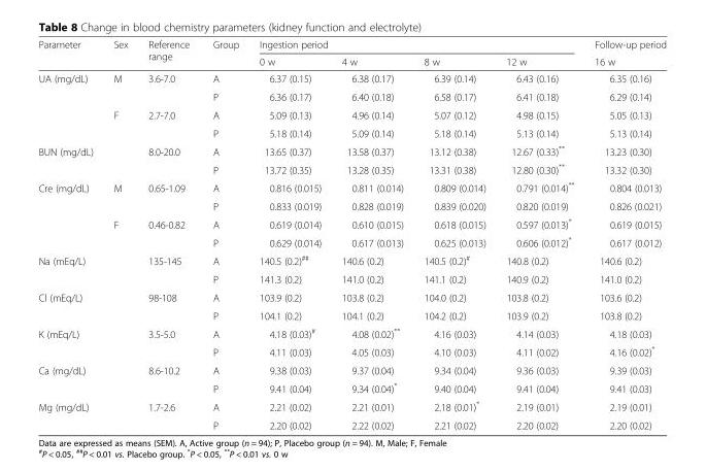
<table><thead><tr><td rowspan="2">Parameter</td><td rowspan="2">Sex</td><td rowspan="2">Reference range</td><td rowspan="2">Group</td><td colspan="4">Ingestion period</td><td rowspan="2">Follow-up period 16 w</td></tr><tr><td>0 w</td><td>4 w</td><td>8 w</td><td>12 w</td></tr></thead><tbody><tr><td rowspan="4">UA (mg/dL)</td><td rowspan="2">M</td><td rowspan="2">3.6-7.0</td><td>A</td><td>6.37 (0.15)</td><td>6.38 (0.17)</td><td>6.39 (0.14)</td><td>6.43 (0.16)</td><td>6.35 (0.16)</td></tr><tr><td>P</td><td>6.36 (0.17)</td><td>6.40 (0.18)</td><td>6.58 (0.17)</td><td>6.41 (0.18)</td><td>6.29 (0.14)</td></tr><tr><td rowspan="2">F</td><td rowspan="2">2.7-7.0</td><td>A</td><td>5.09 (0.13)</td><td>4.96 (0.14)</td><td>5.07 (0.12)</td><td>4.98 (0.15)</td><td>5.05 (0.13)</td></tr><tr><td>P</td><td>5.18 (0.14)</td><td>5.09 (0.14)</td><td>5.18 (0.14)</td><td>5.13 (0.14)</td><td>5.13 (0.14)</td></tr><tr><td rowspan="2">BUN (mg/dL)</td><td rowspan="2"></td><td rowspan="2">8.0-20.0</td><td>A</td><td>13.65 (0.37)</td><td>13.58 (0.37)</td><td>13.12 (0.38)</td><td>12.67 (0.33)**</td><td>13.23 (0.30)</td></tr><tr><td>P</td><td>13.72 (0.35)</td><td>13.28 (0.35)</td><td>13.31 (0.38)</td><td>12.80 (0.30)**</td><td>13.32 (0.30)</td></tr><tr><td rowspan="4">Cre (mg/dL)</td><td rowspan="2">M</td><td rowspan="2">0.65-1.09</td><td>A</td><td>0.816 (0.015)</td><td>0.811 (0.014)</td><td>0.809 (0.014)</td><td>0.791 (0.014)**</td><td>0.804 (0.013)</td></tr><tr><td>P</td><td>0.833 (0.019)</td><td>0.828 (0.019)</td><td>0.839 (0.020)</td><td>0.820 (0.019)</td><td>0.826 (0.021)</td></tr><tr><td rowspan="2">F</td><td rowspan="2">0.46-0.82</td><td>A</td><td>0.619 (0.014)</td><td>0.610 (0.015)</td><td>0.618 (0.015)</td><td>0.597 (0.013)*</td><td>0.619 (0.015)</td></tr><tr><td>P</td><td>0.629 (0.014)</td><td>0.617 (0.013)</td><td>0.625 (0.013)</td><td>0.606 (0.012)*</td><td>0.617 (0.012)</td></tr><tr><td rowspan="2">Na (mEq/L)</td><td rowspan="2"></td><td rowspan="2">135-145</td><td>A</td><td>140.5 (0.2)<sup>##</sup></td><td>140.6 (0.2)</td><td>140.5 (0.2)<sup>#</sup></td><td>140.8 (0.2)</td><td>140.6 (0.2)</td></tr><tr><td>P</td><td>141.3 (0.2)</td><td>141.0 (0.2)</td><td>141.1 (0.2)</td><td>140.9 (0.2)</td><td>141.0 (0.2)</td></tr><tr><td rowspan="2">Cl (mEq/L)</td><td rowspan="2"></td><td rowspan="2">98-108</td><td>A</td><td>103.9 (0.2)</td><td>103.8 (0.2)</td><td>104.0 (0.2)</td><td>103.8 (0.2)</td><td>103.6 (0.2)</td></tr><tr><td>P</td><td>104.1 (0.2)</td><td>104.1 (0.2)</td><td>104.2 (0.2)</td><td>103.9 (0.2)</td><td>103.8 (0.2)</td></tr><tr><td rowspan="2">K (mEq/L)</td><td rowspan="2"></td><td rowspan="2">3.5-5.0</td><td>A</td><td>4.18 (0.03)<sup>#</sup></td><td>4.08 (0.02)**</td><td>4.16 (0.03)</td><td>4.14 (0.03)</td><td>4.18 (0.03)</td></tr><tr><td>P</td><td>4.11 (0.03)</td><td>4.05 (0.03)</td><td>4.10 (0.03)</td><td>4.11 (0.02)</td><td>4.16 (0.02)*</td></tr><tr><td rowspan="2">Ca (mg/dL)</td><td rowspan="2"></td><td rowspan="2">8.6-10.2</td><td>A</td><td>9.38 (0.03)</td><td>9.37 (0.04)</td><td>9.34 (0.04)</td><td>9.36 (0.03)</td><td>9.39 (0.03)</td></tr><tr><td>P</td><td>9.41 (0.04)</td><td>9.34 (0.04)*</td><td>9.40 (0.04)</td><td>9.41 (0.04)</td><td>9.41 (0.03)</td></tr><tr><td rowspan="2">Mg (mg/dL)</td><td rowspan="2"></td><td rowspan="2">1.7-2.6</td><td>A</td><td>2.21 (0.02)</td><td>2.21 (0.01)</td><td>2.18 (0.01)*</td><td>2.19 (0.01)</td><td>2.19 (0.01)</td></tr><tr><td>P</td><td>2.20 (0.02)</td><td>2.22 (0.02)</td><td>2.21 (0.02)</td><td>2.20 (0.02)</td><td>2.20 (0.02)</td></tr></tbody></table>